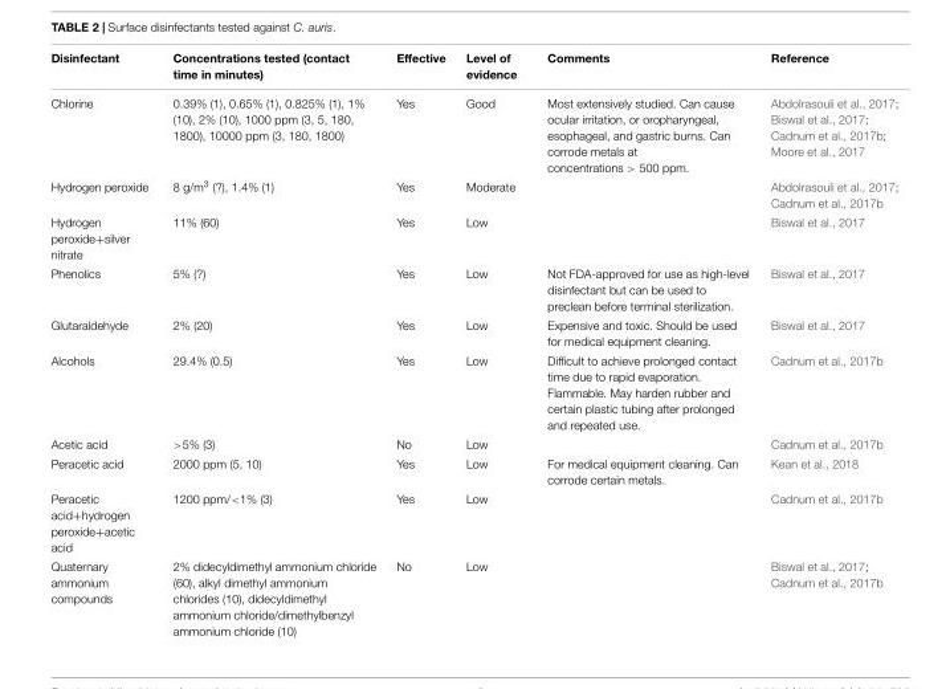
<table><thead><tr><td>Disinfectant</td><td>Concentrations tested (contact time in minutes)</td><td>Effective</td><td>Level of evidence</td><td>Comments</td><td>Reference</td></tr></thead><tbody><tr><td>Chlorine</td><td>0.39% (1), 0.65% (1), 0.825% (1), 1% (10), 2% (10), 1000 ppm (3, 5, 180, 1800), 10000 ppm (3, 180, 1800)</td><td>Yes</td><td>Good</td><td>Most extensively studied. Can cause ocular irritation, or oropharyngeal, esophageal, and gastric burns. Can corrode metals at concentrations &gt; 500 ppm.</td><td>Abdolrasouli et al., 2017; Biswal et al., 2017; Cadnum et al., 2017b; Moore et al., 2017</td></tr><tr><td>Hydrogen peroxide</td><td>8 g/m<sup>3</sup> (?), 1.4% (1)</td><td>Yes</td><td>Moderate</td><td></td><td>Abdolrasouli et al., 2017; Cadnum et al., 2017b</td></tr><tr><td>Hydrogen peroxide+silver nitrate</td><td>11% (60)</td><td>Yes</td><td>Low</td><td></td><td>Biswal et al., 2017</td></tr><tr><td>Phenolics</td><td>5% (?)</td><td>Yes</td><td>Low</td><td>Not FDA-approved for use as high-level disinfectant but can be used to preclean before terminal sterilization.</td><td>Biswal et al., 2017</td></tr><tr><td>Glutaraldehyde</td><td>2% (20)</td><td>Yes</td><td>Low</td><td>Expensive and toxic. Should be used for medical equipment cleaning.</td><td>Biswal et al., 2017</td></tr><tr><td>Alcohols</td><td>29.4% (0.5)</td><td>Yes</td><td>Low</td><td>Difficult to achieve prolonged contact time due to rapid evaporation. Flammable. May harden rubber and certain plastic tubing after prolonged and repeated use.</td><td>Cadnum et al., 2017b</td></tr><tr><td>Acetic acid</td><td>&gt;5% (3)</td><td>No</td><td>Low</td><td></td><td>Cadnum et al., 2017b</td></tr><tr><td>Peracetic acid</td><td>2000 ppm (5, 10)</td><td>Yes</td><td>Low</td><td>For medical equipment cleaning. Can corrode certain metals.</td><td>Kean et al., 2018</td></tr><tr><td>Peracetic acid+hydrogen peroxide+acetic acid</td><td>1200 ppm/&lt;1% (3)</td><td>Yes</td><td>Low</td><td></td><td>Cadnum et al., 2017b</td></tr><tr><td>Quaternary ammonium compounds</td><td>2% didecyldimethyl ammonium chloride (60), alkyl dimethyl ammonium chlorides (10), didecyldimethyl ammonium chloride/dimethylbenzyl ammonium chloride (10)</td><td>No</td><td>Low</td><td></td><td>Biswal et al., 2017; Cadnum et al., 2017b</td></tr></tbody></table>